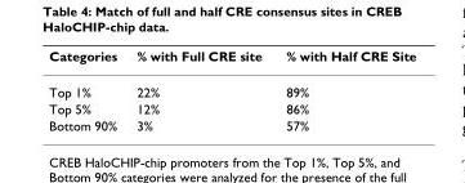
<table><thead><tr><td>Categories</td><td>% with Full CRE site</td><td>% with Half CRE Site</td></tr></thead><tbody><tr><td>Top 1%</td><td>22%</td><td>89%</td></tr><tr><td>Top 5%</td><td>12%</td><td>86%</td></tr><tr><td>Bottom 90%</td><td>3%</td><td>57%</td></tr></tbody></table>